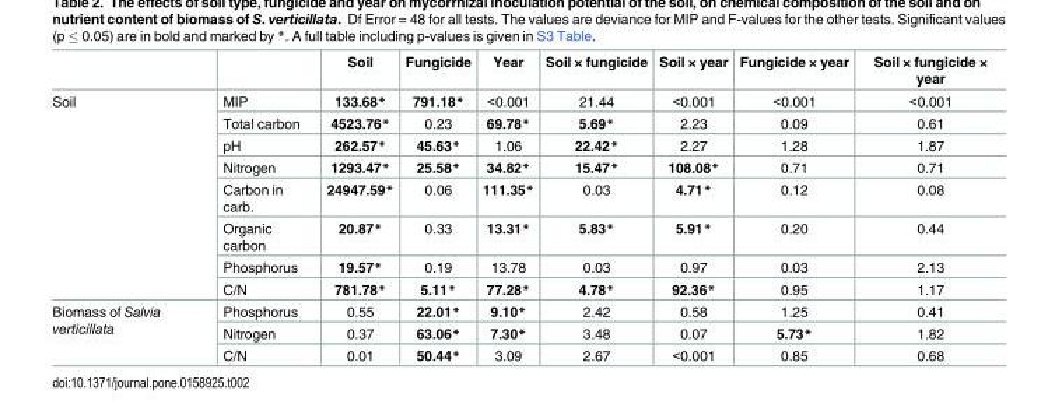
<table><thead><tr><td></td><td></td><td>Soil</td><td>Fungicide</td><td>Year</td><td>Soil × fungicide</td><td>Soil × year</td><td>Fungicide × year</td><td>Soil × fungicide × year</td></tr></thead><tbody><tr><td rowspan="8">Soil</td><td>MIP</td><td>133.68*</td><td>791.18*</td><td>&lt;0.001</td><td>21.44</td><td>&lt;0.001</td><td>&lt;0.001</td><td>&lt;0.001</td></tr><tr><td>Total carbon</td><td>4523.76*</td><td>0.23</td><td>69.78*</td><td>5.69*</td><td>2.23</td><td>0.09</td><td>0.61</td></tr><tr><td>pH</td><td>262.57*</td><td>45.63*</td><td>1.06</td><td>22.42*</td><td>2.27</td><td>1.28</td><td>1.87</td></tr><tr><td>Nitrogen</td><td>1293.47*</td><td>25.58*</td><td>34.82*</td><td>15.47*</td><td>108.08*</td><td>0.71</td><td>0.71</td></tr><tr><td>Carbon in carb.</td><td>24947.59*</td><td>0.06</td><td>111.35*</td><td>0.03</td><td>4.71*</td><td>0.12</td><td>0.08</td></tr><tr><td>Organic carbon</td><td>20.87*</td><td>0.33</td><td>13.31*</td><td>5.83*</td><td>5.91*</td><td>0.20</td><td>0.44</td></tr><tr><td>Phosphorus</td><td>19.57*</td><td>0.19</td><td>13.78</td><td>0.03</td><td>0.97</td><td>0.03</td><td>2.13</td></tr><tr><td>C/N</td><td>781.78*</td><td>5.11*</td><td>77.28*</td><td>4.78*</td><td>92.36*</td><td>0.95</td><td>1.17</td></tr><tr><td rowspan="3">Biomass of Salvia verticillata</td><td>Phosphorus</td><td>0.55</td><td>22.01*</td><td>9.10*</td><td>2.42</td><td>0.58</td><td>1.25</td><td>0.41</td></tr><tr><td>Nitrogen</td><td>0.37</td><td>63.06*</td><td>7.30*</td><td>3.48</td><td>0.07</td><td>5.73*</td><td>1.82</td></tr><tr><td>C/N</td><td>0.01</td><td>50.44*</td><td>3.09</td><td>2.67</td><td>&lt;0.001</td><td>0.85</td><td>0.68</td></tr></tbody></table>